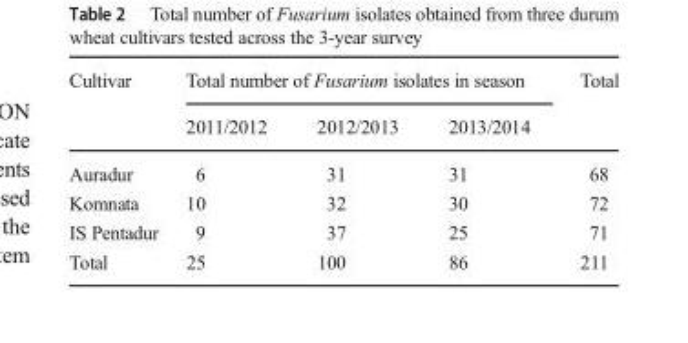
<table><thead><tr><td rowspan="2">Cultivar</td><td colspan="3">Total number of Fusarium isolates in season</td><td rowspan="2">Total</td></tr><tr><td>2011/2012</td><td>2012/2013</td><td>2013/2014</td></tr></thead><tbody><tr><td>Auradur</td><td>6</td><td>31</td><td>31</td><td>68</td></tr><tr><td>Komnata</td><td>10</td><td>32</td><td>30</td><td>72</td></tr><tr><td>IS Pentadur</td><td>9</td><td>37</td><td>25</td><td>71</td></tr><tr><td>Total</td><td>25</td><td>100</td><td>86</td><td>211</td></tr></tbody></table>